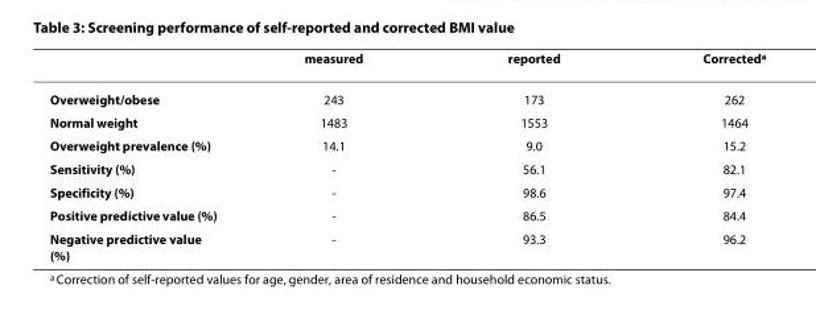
<table><thead><tr><td></td><td>measured</td><td>reported</td><td>Corrected<sup>a</sup></td></tr></thead><tbody><tr><td>Overweight/obese</td><td>243</td><td>173</td><td>262</td></tr><tr><td>Normal weight</td><td>1483</td><td>1553</td><td>1464</td></tr><tr><td>Overweight prevalence (%)</td><td>14.1</td><td>9.0</td><td>15.2</td></tr><tr><td>Sensitivity (%)</td><td>-</td><td>56.1</td><td>82.1</td></tr><tr><td>Specificity (%)</td><td>-</td><td>98.6</td><td>97.4</td></tr><tr><td>Positive predictive value (%)</td><td>-</td><td>86.5</td><td>84.4</td></tr><tr><td>Negative predictive value (%)</td><td>-</td><td>93.3</td><td>96.2</td></tr></tbody></table>